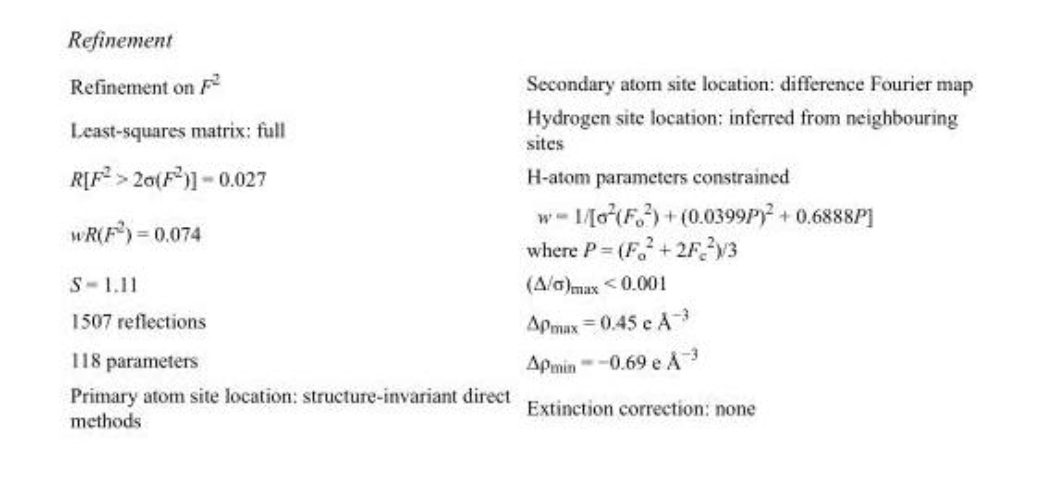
<table><tbody><tr><td>Refinement on F<sup>2</sup></td><td>Secondary atom site location: difference Fourier map</td></tr><tr><td>Least-squares matrix: full</td><td>Hydrogen site location: inferred from neighbouring sites</td></tr><tr><td>R[F<sup>2</sup> &gt; 2σ(F<sup>2</sup>)] = 0.027</td><td>H-atom parameters constrained</td></tr><tr><td>wR(F<sup>2</sup>) = 0.074</td><td>w = 1/[σ<sup>2</sup>(F<sub>o</sub> <sup>2</sup>) + (0.0399P)<sup>2</sup> + 0.6888P] where P = (F<sub>o</sub> <sup>2</sup> + 2F<sub>c</sub> <sup>2</sup>)/3</td></tr><tr><td>S = 1.11</td><td>(Δ/σ)<sub>max</sub> &lt; 0.001</td></tr><tr><td>1507 reflections</td><td>Δρ<sub>max</sub> = 0.45 e Å<sup>−3</sup></td></tr><tr><td>118 parameters</td><td>Δρ<sub>min</sub> = −0.69 e Å<sup>−3</sup></td></tr><tr><td>Primary atom site location: structure-invariant direct methods</td><td>Extinction correction: none</td></tr></tbody></table>